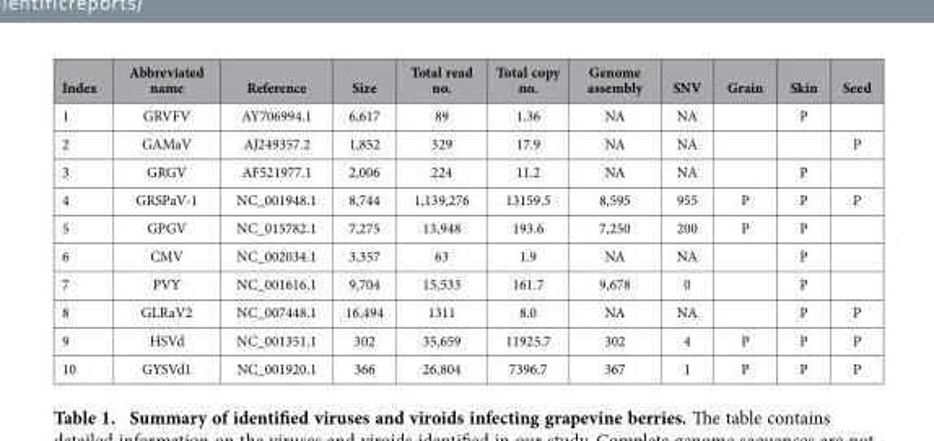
<table><thead><tr><td>Index</td><td>Abbreviated name</td><td>Reference</td><td>Size</td><td>Total read no.</td><td>Total copy no.</td><td>Genome assembly</td><td>SNV</td><td>Grain</td><td>Skin</td><td>Seed</td></tr></thead><tbody><tr><td>1</td><td>GRVFV</td><td>AY706994.1</td><td>6,617</td><td>89</td><td>1.36</td><td>NA</td><td>NA</td><td></td><td>P</td><td></td></tr><tr><td>2</td><td>GAMaV</td><td>AJ249357.2</td><td>1,852</td><td>329</td><td>17.9</td><td>NA</td><td>NA</td><td></td><td></td><td>P</td></tr><tr><td>3</td><td>GRGV</td><td>AF521977.1</td><td>2,006</td><td>224</td><td>11.2</td><td>NA</td><td>NA</td><td></td><td>P</td><td></td></tr><tr><td>4</td><td>GRSPaV-1</td><td>NC_001948.1</td><td>8,744</td><td>1,139,276</td><td>13159.5</td><td>8,595</td><td>955</td><td>P</td><td>P</td><td>P</td></tr><tr><td>5</td><td>GPGV</td><td>NC_015782.1</td><td>7,275</td><td>13,948</td><td>193.6</td><td>7,250</td><td>200</td><td>P</td><td>P</td><td></td></tr><tr><td>6</td><td>CMV</td><td>NC_002034.1</td><td>3,357</td><td>63</td><td>1.9</td><td>NA</td><td>NA</td><td></td><td>P</td><td></td></tr><tr><td>7</td><td>PVY</td><td>NC_001616.1</td><td>9,704</td><td>15,533</td><td>161.7</td><td>9,678</td><td>0</td><td></td><td>P</td><td></td></tr><tr><td>8</td><td>GLRaV2</td><td>NC_007448.1</td><td>16,494</td><td>1311</td><td>8.0</td><td>NA</td><td>NA</td><td></td><td>P</td><td>P</td></tr><tr><td>9</td><td>HSVd</td><td>NC_001351.1</td><td>302</td><td>35,659</td><td>11925.7</td><td>302</td><td>4</td><td>P</td><td>P</td><td>P</td></tr><tr><td>10</td><td>GYSVd1</td><td>NC_001920.1</td><td>366</td><td>26,804</td><td>7396.7</td><td>367</td><td>1</td><td>P</td><td>P</td><td>P</td></tr></tbody></table>